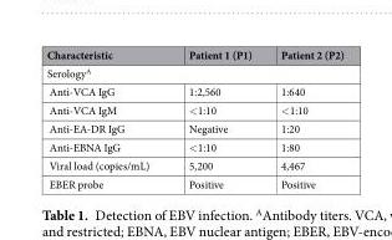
<table><thead><tr><td>Characteristic</td><td>Patient 1 (P1)</td><td>Patient 2 (P2)</td></tr></thead><tbody><tr><td colspan="3">Serology<sup>A</sup></td></tr><tr><td>Anti-VCA IgG</td><td>1:2,560</td><td>1:640</td></tr><tr><td>Anti-VCA IgM</td><td>&lt;1:10</td><td>&lt;1:10</td></tr><tr><td>Anti-EA-DR IgG</td><td>Negative</td><td>1:20</td></tr><tr><td>Anti-EBNA IgG</td><td>&lt;1:10</td><td>1:80</td></tr><tr><td>Viral load (copies/mL)</td><td>5,200</td><td>4,467</td></tr><tr><td>EBER probe</td><td>Positive</td><td>Positive</td></tr></tbody></table>